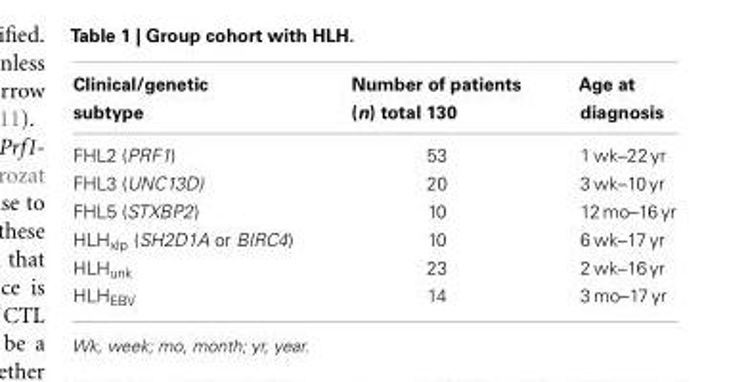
<table><thead><tr><td>Clinical/genetic subtype</td><td>Number of patients (n) total 130</td><td>Age at diagnosis</td></tr></thead><tbody><tr><td>FHL2 (PRF1)</td><td>53</td><td>1 wk–22 yr</td></tr><tr><td>FHL3 (UNC13D)</td><td>20</td><td>3 wk–10 yr</td></tr><tr><td>FHL5 (STXBP2)</td><td>10</td><td>12 mo–16 yr</td></tr><tr><td>HLH<sub>xlp</sub> (SH2D1A or BIRC4)</td><td>10</td><td>6 wk–17 yr</td></tr><tr><td>HLH<sub>unk</sub></td><td>23</td><td>2 wk–16 yr</td></tr><tr><td>HLH<sub>EBV</sub></td><td>14</td><td>3 mo–17 yr</td></tr></tbody></table>